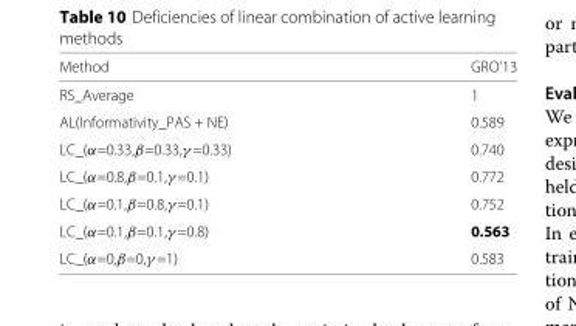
<table><thead><tr><td>Method</td><td>GRO’13</td></tr></thead><tbody><tr><td>RS_Average</td><td>1</td></tr><tr><td>AL(Informativity_PAS + NE)</td><td>0.589</td></tr><tr><td>LC_(α=0.33,β=0.33,γ =0.33)</td><td>0.740</td></tr><tr><td>LC_(α=0.8,β=0.1,γ =0.1)</td><td>0.772</td></tr><tr><td>LC_(α=0.1,β=0.8,γ =0.1)</td><td>0.752</td></tr><tr><td>LC_(α=0.1,β=0.1,γ =0.8)</td><td>0.563</td></tr><tr><td>LC_(α=0,β=0,γ =1)</td><td>0.583</td></tr></tbody></table>